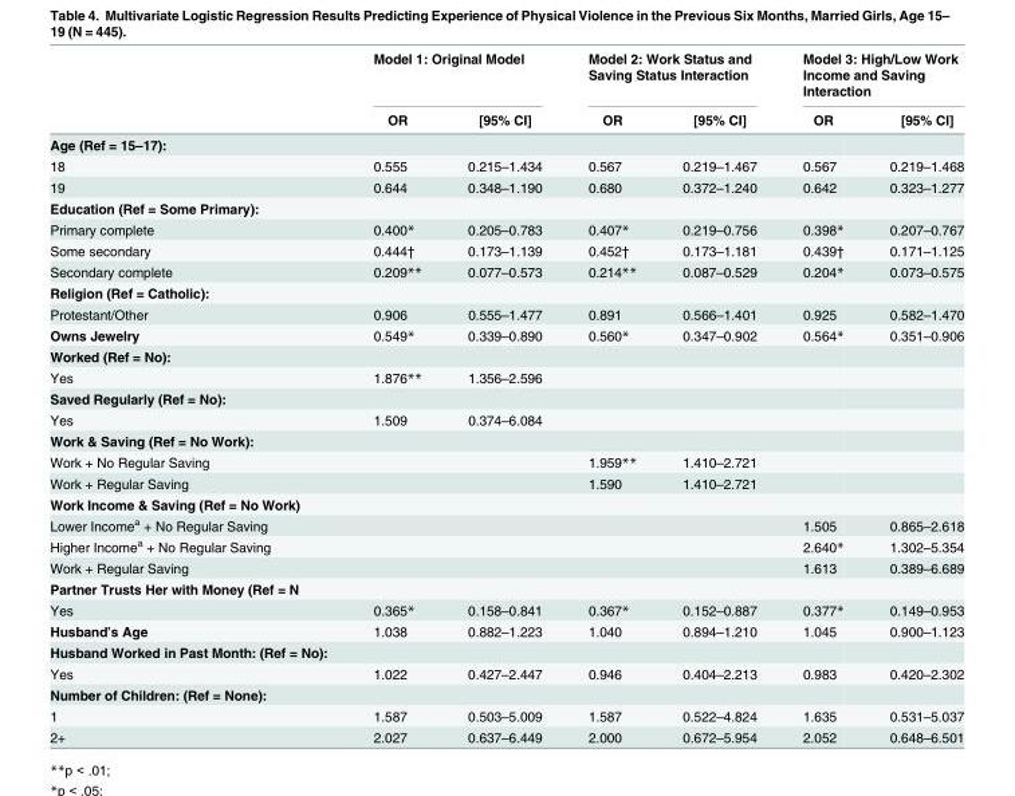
<table><thead><tr><td rowspan="2"></td><td colspan="2">Model 1: Original Model</td><td colspan="2">Model 2: Work Status and Saving Status Interaction</td><td colspan="2">Model 3: High/Low Work Income and Saving Interaction</td></tr><tr><td>OR</td><td>[95% CI]</td><td>OR</td><td>[95% CI]</td><td>OR</td><td>[95% CI]</td></tr></thead><tbody><tr><td colspan="7">Age (Ref = 15–17):</td></tr><tr><td>18</td><td>0.555</td><td>0.215–1.434</td><td>0.567</td><td>0.219–1.467</td><td>0.567</td><td>0.219–1.468</td></tr><tr><td>19</td><td>0.644</td><td>0.348–1.190</td><td>0.680</td><td>0.372–1.240</td><td>0.642</td><td>0.323–1.277</td></tr><tr><td colspan="7">Education (Ref = Some Primary):</td></tr><tr><td>Primary complete</td><td>0.400*</td><td>0.205–0.783</td><td>0.407*</td><td>0.219–0.756</td><td>0.398*</td><td>0.207–0.767</td></tr><tr><td>Some secondary</td><td>0.444†</td><td>0.173–1.139</td><td>0.452†</td><td>0.173–1.181</td><td>0.439†</td><td>0.171–1.125</td></tr><tr><td>Secondary complete</td><td>0.209**</td><td>0.077–0.573</td><td>0.214**</td><td>0.087–0.529</td><td>0.204*</td><td>0.073–0.575</td></tr><tr><td colspan="7">Religion (Ref = Catholic):</td></tr><tr><td>Protestant/Other</td><td>0.906</td><td>0.555–1.477</td><td>0.891</td><td>0.566–1.401</td><td>0.925</td><td>0.582–1.470</td></tr><tr><td>Owns Jewelry</td><td>0.549*</td><td>0.339–0.890</td><td>0.560*</td><td>0.347–0.902</td><td>0.564*</td><td>0.351–0.906</td></tr><tr><td colspan="7">Worked (Ref = No):</td></tr><tr><td>Yes</td><td>1.876**</td><td>1.356–2.596</td><td></td><td></td><td></td><td></td></tr><tr><td colspan="7">Saved Regularly (Ref = No):</td></tr><tr><td>Yes</td><td>1.509</td><td>0.374–6.084</td><td></td><td></td><td></td><td></td></tr><tr><td colspan="7">Work &amp; Saving (Ref = No Work):</td></tr><tr><td>Work + No Regular Saving</td><td></td><td></td><td>1.959**</td><td>1.410–2.721</td><td></td><td></td></tr><tr><td>Work + Regular Saving</td><td></td><td></td><td>1.590</td><td>1.410–2.721</td><td></td><td></td></tr><tr><td colspan="7">Work Income &amp; Saving (Ref = No Work)</td></tr><tr><td>Lower Income<sup>a</sup> + No Regular Saving</td><td></td><td></td><td></td><td></td><td>1.505</td><td>0.865–2.618</td></tr><tr><td>Higher Income<sup>a</sup> + No Regular Saving</td><td></td><td></td><td></td><td></td><td>2.640*</td><td>1.302–5.354</td></tr><tr><td>Work + Regular Saving</td><td></td><td></td><td></td><td></td><td>1.613</td><td>0.389–6.689</td></tr><tr><td colspan="7">Partner Trusts Her with Money (Ref = N</td></tr><tr><td>Yes</td><td>0.365*</td><td>0.158–0.841</td><td>0.367*</td><td>0.152–0.887</td><td>0.377*</td><td>0.149–0.953</td></tr><tr><td>Husband’s Age</td><td>1.038</td><td>0.882–1.223</td><td>1.040</td><td>0.894–1.210</td><td>1.045</td><td>0.900–1.123</td></tr><tr><td colspan="7">Husband Worked in Past Month: (Ref = No):</td></tr><tr><td>Yes</td><td>1.022</td><td>0.427–2.447</td><td>0.946</td><td>0.404–2.213</td><td>0.983</td><td>0.420–2.302</td></tr><tr><td colspan="7">Number of Children: (Ref = None):</td></tr><tr><td>1</td><td>1.587</td><td>0.503–5.009</td><td>1.587</td><td>0.522–4.824</td><td>1.635</td><td>0.531–5.037</td></tr><tr><td>2+</td><td>2.027</td><td>0.637–6.449</td><td>2.000</td><td>0.672–5.954</td><td>2.052</td><td>0.648–6.501</td></tr></tbody></table>